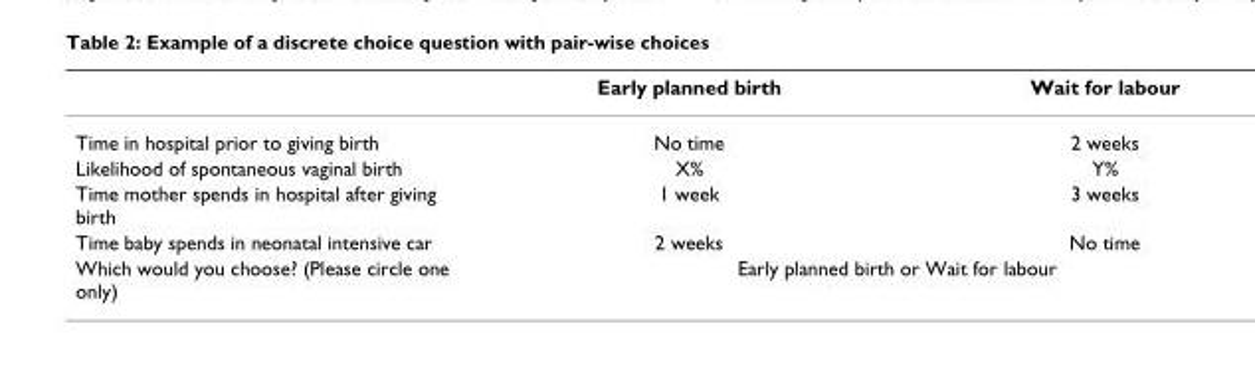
<table><thead><tr><td></td><td>Early planned birth</td><td>Wait for labour</td></tr></thead><tbody><tr><td>Time in hospital prior to giving birth</td><td>No time</td><td>2 weeks</td></tr><tr><td>Likelihood of spontaneous vaginal birth</td><td>X%</td><td>Y%</td></tr><tr><td>Time mother spends in hospital after giving birth</td><td>1 week</td><td>3 weeks</td></tr><tr><td>Time baby spends in neonatal intensive car</td><td>2 weeks</td><td>No time</td></tr><tr><td>Which would you choose? (Please circle one only)</td><td colspan="2">Early planned birth or Wait for labour</td></tr></tbody></table>